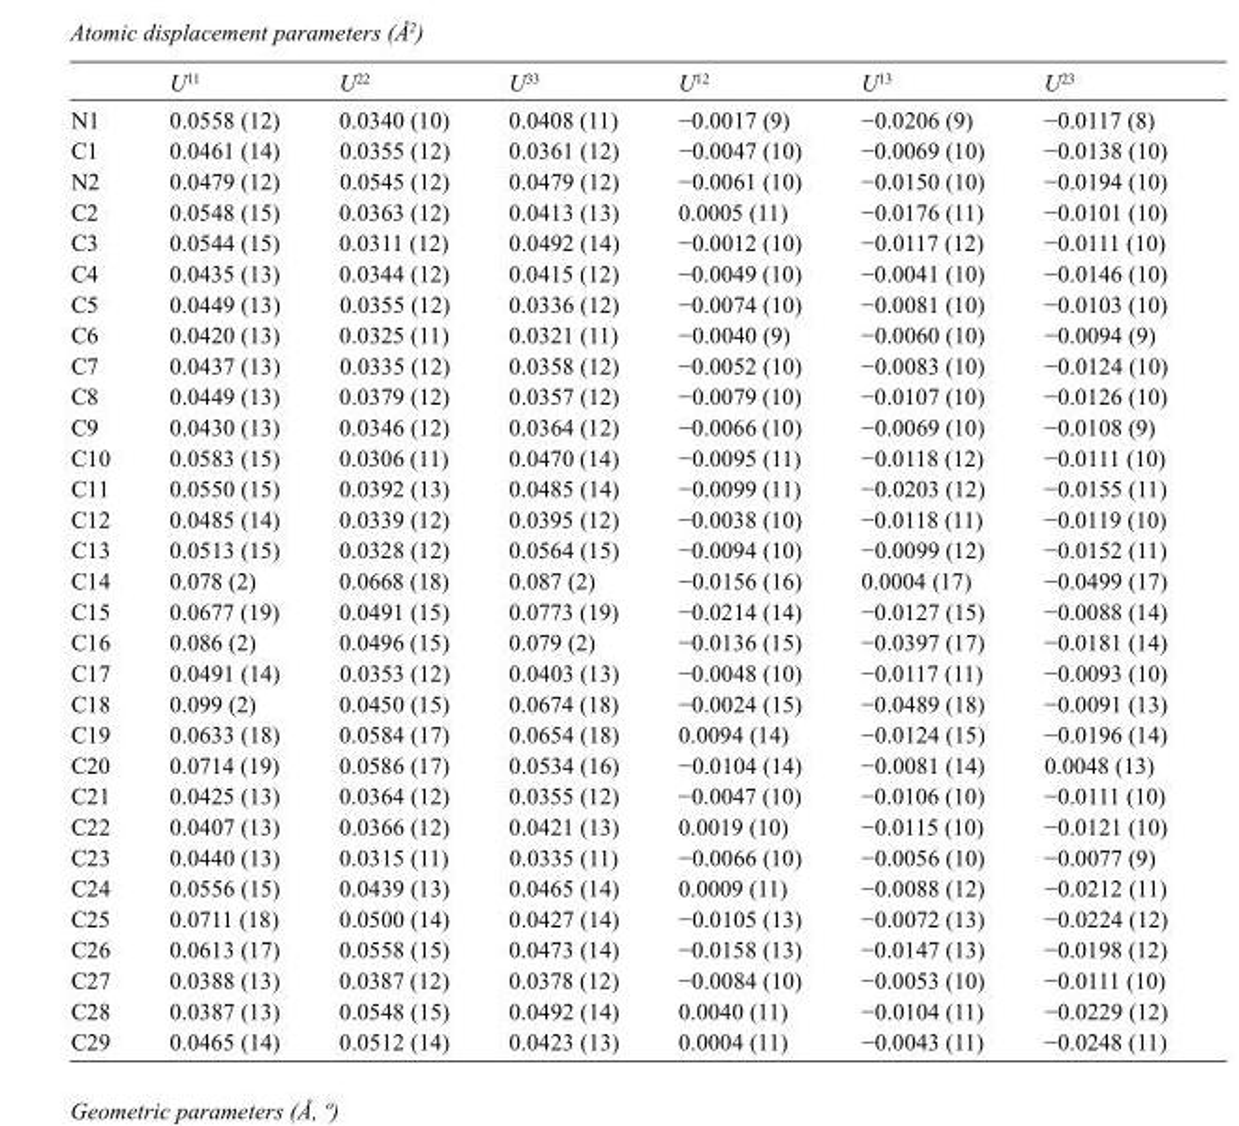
<table><thead><tr><td></td><td>U<sup>11</sup></td><td>U<sup>22</sup></td><td>U<sup>33</sup></td><td>U<sup>12</sup></td><td>U<sup>13</sup></td><td>U<sup>23</sup></td></tr></thead><tbody><tr><td>N1</td><td>0.0558 (12)</td><td>0.0340 (10)</td><td>0.0408 (11)</td><td>−0.0017 (9)</td><td>−0.0206 (9)</td><td>−0.0117 (8)</td></tr><tr><td>C1</td><td>0.0461 (14)</td><td>0.0355 (12)</td><td>0.0361 (12)</td><td>−0.0047 (10)</td><td>−0.0069 (10)</td><td>−0.0138 (10)</td></tr><tr><td>N2</td><td>0.0479 (12)</td><td>0.0545 (12)</td><td>0.0479 (12)</td><td>−0.0061 (10)</td><td>−0.0150 (10)</td><td>−0.0194 (10)</td></tr><tr><td>C2</td><td>0.0548 (15)</td><td>0.0363 (12)</td><td>0.0413 (13)</td><td>0.0005 (11)</td><td>−0.0176 (11)</td><td>−0.0101 (10)</td></tr><tr><td>C3</td><td>0.0544 (15)</td><td>0.0311 (12)</td><td>0.0492 (14)</td><td>−0.0012 (10)</td><td>−0.0117 (12)</td><td>−0.0111 (10)</td></tr><tr><td>C4</td><td>0.0435 (13)</td><td>0.0344 (12)</td><td>0.0415 (12)</td><td>−0.0049 (10)</td><td>−0.0041 (10)</td><td>−0.0146 (10)</td></tr><tr><td>C5</td><td>0.0449 (13)</td><td>0.0355 (12)</td><td>0.0336 (12)</td><td>−0.0074 (10)</td><td>−0.0081 (10)</td><td>−0.0103 (10)</td></tr><tr><td>C6</td><td>0.0420 (13)</td><td>0.0325 (11)</td><td>0.0321 (11)</td><td>−0.0040 (9)</td><td>−0.0060 (10)</td><td>−0.0094 (9)</td></tr><tr><td>C7</td><td>0.0437 (13)</td><td>0.0335 (12)</td><td>0.0358 (12)</td><td>−0.0052 (10)</td><td>−0.0083 (10)</td><td>−0.0124 (10)</td></tr><tr><td>C8</td><td>0.0449 (13)</td><td>0.0379 (12)</td><td>0.0357 (12)</td><td>−0.0079 (10)</td><td>−0.0107 (10)</td><td>−0.0126 (10)</td></tr><tr><td>C9</td><td>0.0430 (13)</td><td>0.0346 (12)</td><td>0.0364 (12)</td><td>−0.0066 (10)</td><td>−0.0069 (10)</td><td>−0.0108 (9)</td></tr><tr><td>C10</td><td>0.0583 (15)</td><td>0.0306 (11)</td><td>0.0470 (14)</td><td>−0.0095 (11)</td><td>−0.0118 (12)</td><td>−0.0111 (10)</td></tr><tr><td>C11</td><td>0.0550 (15)</td><td>0.0392 (13)</td><td>0.0485 (14)</td><td>−0.0099 (11)</td><td>−0.0203 (12)</td><td>−0.0155 (11)</td></tr><tr><td>C12</td><td>0.0485 (14)</td><td>0.0339 (12)</td><td>0.0395 (12)</td><td>−0.0038 (10)</td><td>−0.0118 (11)</td><td>−0.0119 (10)</td></tr><tr><td>C13</td><td>0.0513 (15)</td><td>0.0328 (12)</td><td>0.0564 (15)</td><td>−0.0094 (10)</td><td>−0.0099 (12)</td><td>−0.0152 (11)</td></tr><tr><td>C14</td><td>0.078 (2)</td><td>0.0668 (18)</td><td>0.087 (2)</td><td>−0.0156 (16)</td><td>0.0004 (17)</td><td>−0.0499 (17)</td></tr><tr><td>C15</td><td>0.0677 (19)</td><td>0.0491 (15)</td><td>0.0773 (19)</td><td>−0.0214 (14)</td><td>−0.0127 (15)</td><td>−0.0088 (14)</td></tr><tr><td>C16</td><td>0.086 (2)</td><td>0.0496 (15)</td><td>0.079 (2)</td><td>−0.0136 (15)</td><td>−0.0397 (17)</td><td>−0.0181 (14)</td></tr><tr><td>C17</td><td>0.0491 (14)</td><td>0.0353 (12)</td><td>0.0403 (13)</td><td>−0.0048 (10)</td><td>−0.0117 (11)</td><td>−0.0093 (10)</td></tr><tr><td>C18</td><td>0.099 (2)</td><td>0.0450 (15)</td><td>0.0674 (18)</td><td>−0.0024 (15)</td><td>−0.0489 (18)</td><td>−0.0091 (13)</td></tr><tr><td>C19</td><td>0.0633 (18)</td><td>0.0584 (17)</td><td>0.0654 (18)</td><td>0.0094 (14)</td><td>−0.0124 (15)</td><td>−0.0196 (14)</td></tr><tr><td>C20</td><td>0.0714 (19)</td><td>0.0586 (17)</td><td>0.0534 (16)</td><td>−0.0104 (14)</td><td>−0.0081 (14)</td><td>0.0048 (13)</td></tr><tr><td>C21</td><td>0.0425 (13)</td><td>0.0364 (12)</td><td>0.0355 (12)</td><td>−0.0047 (10)</td><td>−0.0106 (10)</td><td>−0.0111 (10)</td></tr><tr><td>C22</td><td>0.0407 (13)</td><td>0.0366 (12)</td><td>0.0421 (13)</td><td>0.0019 (10)</td><td>−0.0115 (10)</td><td>−0.0121 (10)</td></tr><tr><td>C23</td><td>0.0440 (13)</td><td>0.0315 (11)</td><td>0.0335 (11)</td><td>−0.0066 (10)</td><td>−0.0056 (10)</td><td>−0.0077 (9)</td></tr><tr><td>C24</td><td>0.0556 (15)</td><td>0.0439 (13)</td><td>0.0465 (14)</td><td>0.0009 (11)</td><td>−0.0088 (12)</td><td>−0.0212 (11)</td></tr><tr><td>C25</td><td>0.0711 (18)</td><td>0.0500 (14)</td><td>0.0427 (14)</td><td>−0.0105 (13)</td><td>−0.0072 (13)</td><td>−0.0224 (12)</td></tr><tr><td>C26</td><td>0.0613 (17)</td><td>0.0558 (15)</td><td>0.0473 (14)</td><td>−0.0158 (13)</td><td>−0.0147 (13)</td><td>−0.0198 (12)</td></tr><tr><td>C27</td><td>0.0388 (13)</td><td>0.0387 (12)</td><td>0.0378 (12)</td><td>−0.0084 (10)</td><td>−0.0053 (10)</td><td>−0.0111 (10)</td></tr><tr><td>C28</td><td>0.0387 (13)</td><td>0.0548 (15)</td><td>0.0492 (14)</td><td>0.0040 (11)</td><td>−0.0104 (11)</td><td>−0.0229 (12)</td></tr><tr><td>C29</td><td>0.0465 (14)</td><td>0.0512 (14)</td><td>0.0423 (13)</td><td>0.0004 (11)</td><td>−0.0043 (11)</td><td>−0.0248 (11)</td></tr></tbody></table>